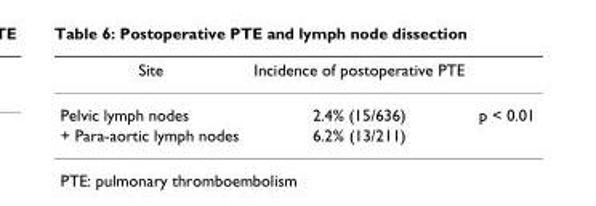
<table><thead><tr><td>Site</td><td>Incidence of postoperative PTE</td><td></td></tr></thead><tbody><tr><td>Pelvic lymph nodes</td><td>2.4% (15/636)</td><td>p &lt; 0.01</td></tr><tr><td>+ Para-aortic lymph nodes</td><td>6.2% (13/211)</td><td></td></tr></tbody></table>